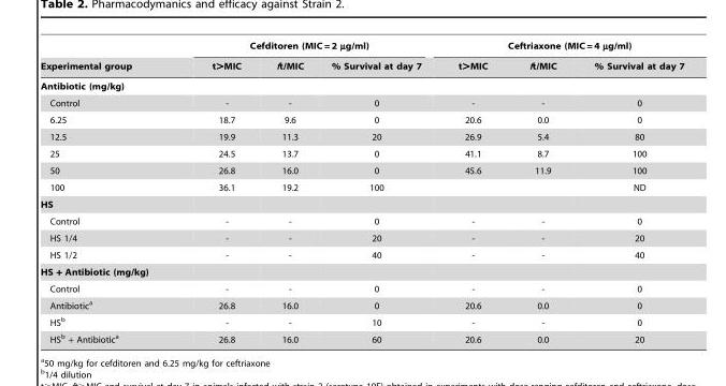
<table><thead><tr><td rowspan="2">Experimental group</td><td colspan="3">Cefditoren (MIC = 2 µg/ml)</td><td colspan="3">Ceftriaxone (MIC = 4 µg/ml)</td></tr><tr><td>t&gt;MIC</td><td>ft/MIC</td><td>% Survival at day 7</td><td>t&gt;MIC</td><td>ft/MIC</td><td>% Survival at day 7</td></tr></thead><tbody><tr><td colspan="7">Antibiotic (mg/kg)</td></tr><tr><td>Control</td><td>-</td><td>-</td><td>0</td><td>-</td><td>-</td><td>0</td></tr><tr><td>6.25</td><td>18.7</td><td>9.6</td><td>0</td><td>20.6</td><td>0.0</td><td>0</td></tr><tr><td>12.5</td><td>19.9</td><td>11.3</td><td>20</td><td>26.9</td><td>5.4</td><td>80</td></tr><tr><td>25</td><td>24.5</td><td>13.7</td><td>0</td><td>41.1</td><td>8.7</td><td>100</td></tr><tr><td>50</td><td>26.8</td><td>16.0</td><td>0</td><td>45.6</td><td>11.9</td><td>100</td></tr><tr><td>100</td><td>36.1</td><td>19.2</td><td>100</td><td></td><td></td><td>ND</td></tr><tr><td colspan="7">HS</td></tr><tr><td>Control</td><td>-</td><td>-</td><td>0</td><td>-</td><td>-</td><td>0</td></tr><tr><td>HS 1/4</td><td>-</td><td>-</td><td>20</td><td>-</td><td>-</td><td>20</td></tr><tr><td>HS 1/2</td><td>-</td><td>-</td><td>40</td><td>-</td><td>-</td><td>40</td></tr><tr><td colspan="7">HS + Antibiotic (mg/kg)</td></tr><tr><td>Control</td><td>-</td><td>-</td><td>0</td><td>-</td><td>-</td><td>0</td></tr><tr><td>Antibiotic<sup>a</sup></td><td>26.8</td><td>16.0</td><td>0</td><td>20.6</td><td>0.0</td><td>0</td></tr><tr><td>HS<sup>b</sup></td><td>-</td><td>-</td><td>10</td><td>-</td><td>-</td><td>0</td></tr><tr><td>HS<sup>b</sup> + Antibiotic<sup>a</sup></td><td>26.8</td><td>16.0</td><td>60</td><td>20.6</td><td>0.0</td><td>20</td></tr></tbody></table>